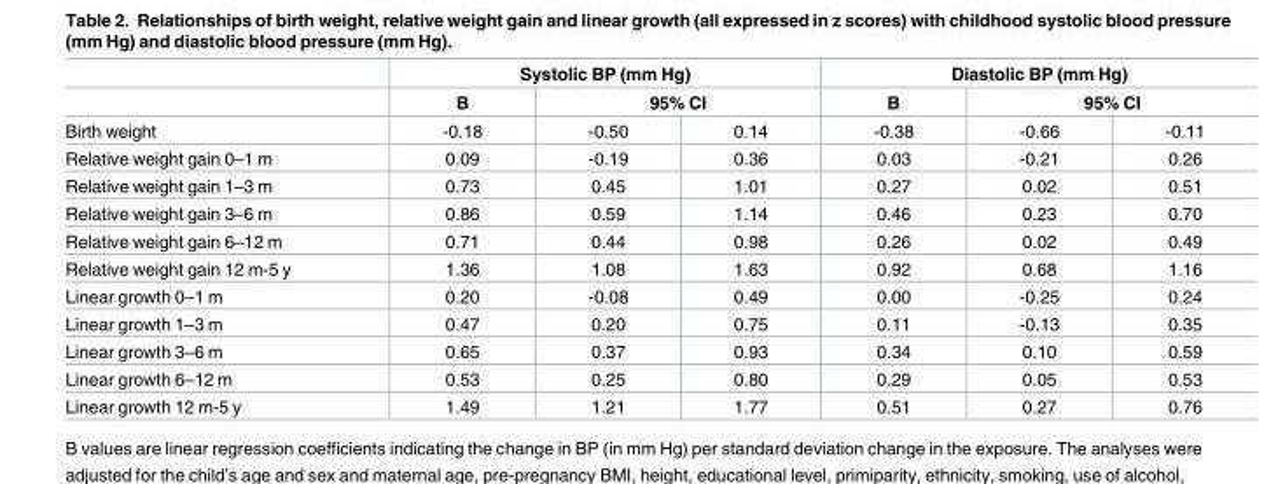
<table><thead><tr><td rowspan="3">Birth weight</td><td colspan="3">Systolic BP (mm Hg)</td><td colspan="3">Diastolic BP (mm Hg)</td></tr><tr><td rowspan="2">B -0.18</td><td colspan="2">95% CI</td><td rowspan="2">B -0.38</td><td colspan="2">95% CI</td></tr><tr><td>-0.50</td><td>0.14</td><td>-0.66</td><td>-0.11</td></tr></thead><tbody><tr><td>Relative weight gain 0–1 m</td><td>0.09</td><td>-0.19</td><td>0.36</td><td>0.03</td><td>-0.21</td><td>0.26</td></tr><tr><td>Relative weight gain 1–3 m</td><td>0.73</td><td>0.45</td><td>1.01</td><td>0.27</td><td>0.02</td><td>0.51</td></tr><tr><td>Relative weight gain 3–6 m</td><td>0.86</td><td>0.59</td><td>1.14</td><td>0.46</td><td>0.23</td><td>0.70</td></tr><tr><td>Relative weight gain 6–12 m</td><td>0.71</td><td>0.44</td><td>0.98</td><td>0.26</td><td>0.02</td><td>0.49</td></tr><tr><td>Relative weight gain 12 m-5 y</td><td>1.36</td><td>1.08</td><td>1.63</td><td>0.92</td><td>0.68</td><td>1.16</td></tr><tr><td>Linear growth 0–1 m</td><td>0.20</td><td>-0.08</td><td>0.49</td><td>0.00</td><td>-0.25</td><td>0.24</td></tr><tr><td>Linear growth 1–3 m</td><td>0.47</td><td>0.20</td><td>0.75</td><td>0.11</td><td>-0.13</td><td>0.35</td></tr><tr><td>Linear growth 3–6 m</td><td>0.65</td><td>0.37</td><td>0.93</td><td>0.34</td><td>0.10</td><td>0.59</td></tr><tr><td>Linear growth 6–12 m</td><td>0.53</td><td>0.25</td><td>0.80</td><td>0.29</td><td>0.05</td><td>0.53</td></tr><tr><td>Linear growth 12 m-5 y</td><td>1.49</td><td>1.21</td><td>1.77</td><td>0.51</td><td>0.27</td><td>0.76</td></tr></tbody></table>